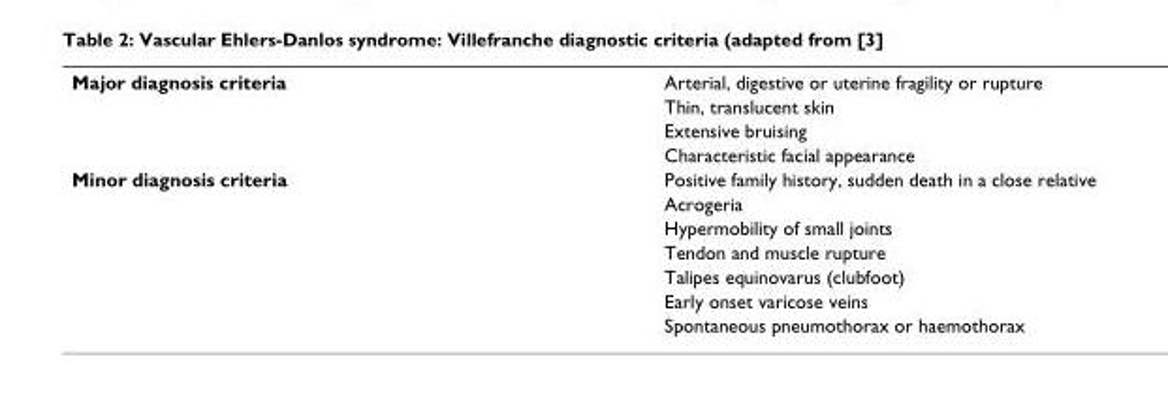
<table><tbody><tr><td rowspan="4">Major diagnosis criteria</td><td>Arterial, digestive or uterine fragility or rupture</td></tr><tr><td>Thin, translucent skin</td></tr><tr><td>Extensive bruising</td></tr><tr><td>Characteristic facial appearance</td></tr><tr><td rowspan="7">Minor diagnosis criteria</td><td>Positive family history, sudden death in a close relative</td></tr><tr><td>Acrogeria</td></tr><tr><td>Hypermobility of small joints</td></tr><tr><td>Tendon and muscle rupture</td></tr><tr><td>Talipes equinovarus (clubfoot)</td></tr><tr><td>Early onset varicose veins</td></tr><tr><td>Spontaneous pneumothorax or haemothorax</td></tr></tbody></table>